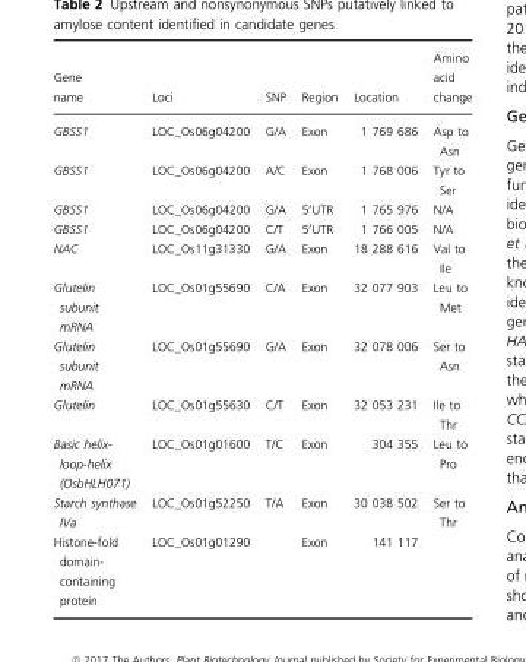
<table><thead><tr><td>Gene name</td><td>Loci</td><td>SNP</td><td>Region</td><td>Location</td><td>Amino acid change</td></tr></thead><tbody><tr><td>GBSS1</td><td>LOC_Os06g04200</td><td>G/A</td><td>Exon</td><td>1 769 686</td><td>Asp to Asn</td></tr><tr><td>GBSS1</td><td>LOC_Os06g04200</td><td>A/C</td><td>Exon</td><td>1 768 006</td><td>Tyr to Ser</td></tr><tr><td>GBSS1</td><td>LOC_Os06g04200</td><td>G/A</td><td>5′UTR</td><td>1 765 976</td><td>N/A</td></tr><tr><td>GBSS1</td><td>LOC_Os06g04200</td><td>C/T</td><td>5′UTR</td><td>1 766 005</td><td>N/A</td></tr><tr><td>NAC</td><td>LOC_Os11g31330</td><td>G/A</td><td>Exon</td><td>18 288 616</td><td>Val to Ile</td></tr><tr><td>Glutelin subunit mRNA</td><td>LOC_Os01g55690</td><td>C/A</td><td>Exon</td><td>32 077 903</td><td>Leu to Met</td></tr><tr><td>Glutelin subunit mRNA</td><td>LOC_Os01g55690</td><td>G/A</td><td>Exon</td><td>32 078 006</td><td>Ser to Asn</td></tr><tr><td>Glutelin</td><td>LOC_Os01g55630</td><td>C/T</td><td>Exon</td><td>32 053 231</td><td>Ile to Thr</td></tr><tr><td>Basic helix- loop-helix (OsbHLH071)</td><td>LOC_Os01g01600</td><td>T/C</td><td>Exon</td><td>304 355</td><td>Leu to Pro</td></tr><tr><td>Starch synthase IVa</td><td>LOC_Os01g52250</td><td>T/A</td><td>Exon</td><td>30 038 502</td><td>Ser to Thr</td></tr><tr><td>Histone-fold domain- containing protein</td><td>LOC_Os01g01290</td><td></td><td>Exon</td><td>141 117</td><td></td></tr></tbody></table>